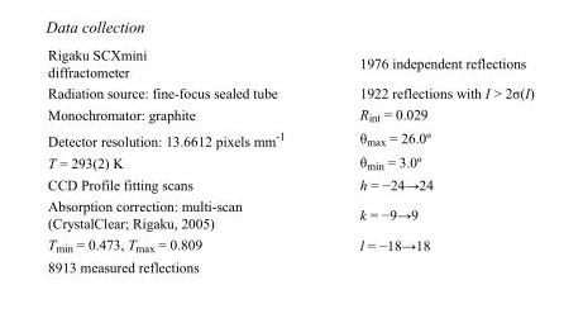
<table><tbody><tr><td>Rigaku SCXmini diffractometer</td><td>1976 independent reflections</td></tr><tr><td>Radiation source: fine-focus sealed tube</td><td>1922 reflections with I &gt; 2σ(I)</td></tr><tr><td>Monochromator: graphite</td><td>R<sub>int</sub> = 0.029</td></tr><tr><td>Detector resolution: 13.6612 pixels mm<sup>-1</sup></td><td>θ<sub>max</sub> = 26.0º</td></tr><tr><td>T = 293(2) K</td><td>θ<sub>min</sub> = 3.0º</td></tr><tr><td>CCD Profile fitting scans</td><td>h = −24→24</td></tr><tr><td>Absorption correction: multi-scan (CrystalClear; Rigaku, 2005)</td><td>k = −9→9</td></tr><tr><td>T<sub>min</sub> = 0.473, T<sub>max</sub> = 0.809</td><td>l = −18→18</td></tr><tr><td>8913 measured reflections</td><td></td></tr></tbody></table>